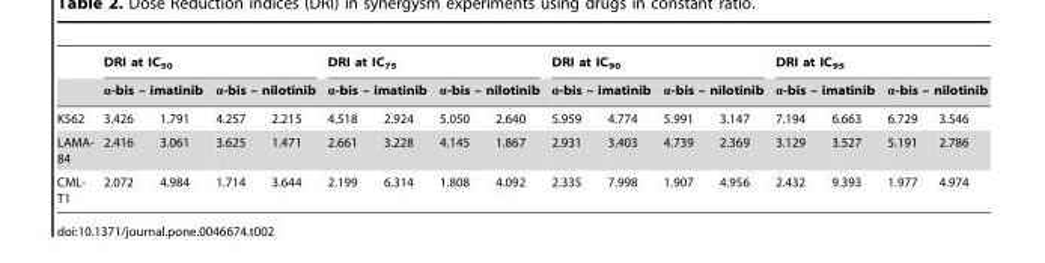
<table><thead><tr><td rowspan="3">K562</td><td colspan="4">DRI at IC<sub>50</sub></td><td colspan="4">DRI at IC<sub>75</sub></td><td colspan="4">DRI at IC<sub>90</sub></td><td colspan="4">DRI at IC<sub>95</sub></td></tr><tr><td colspan="2">α-bis – imatinib</td><td colspan="2">α-bis – nilotinib</td><td colspan="2">α-bis – imatinib</td><td colspan="2">α-bis – nilotinib</td><td colspan="2">α-bis – imatinib</td><td colspan="2">α-bis – nilotinib</td><td colspan="2">α-bis – imatinib</td><td colspan="2">α-bis – nilotinib</td></tr><tr><td>3.426</td><td>1.791</td><td>4.257</td><td>2.215</td><td>4.518</td><td>2.924</td><td>5.050</td><td>2.640</td><td>5.959</td><td>4.774</td><td>5.991</td><td>3.147</td><td>7.194</td><td>6.663</td><td>6.729</td><td>3.546</td></tr></thead><tbody><tr><td>LAMA- 84</td><td>2.416</td><td>3.061</td><td>3.625</td><td>1.471</td><td>2.661</td><td>3.228</td><td>4.145</td><td>1.867</td><td>2.931</td><td>3.403</td><td>4.739</td><td>2.369</td><td>3.129</td><td>3.527</td><td>5.191</td><td>2.786</td></tr><tr><td>CML- T1</td><td>2.072</td><td>4.984</td><td>1.714</td><td>3.644</td><td>2.199</td><td>6.314</td><td>1.808</td><td>4.092</td><td>2.335</td><td>7.998</td><td>1.907</td><td>4.956</td><td>2.432</td><td>9.393</td><td>1.977</td><td>4.974</td></tr></tbody></table>